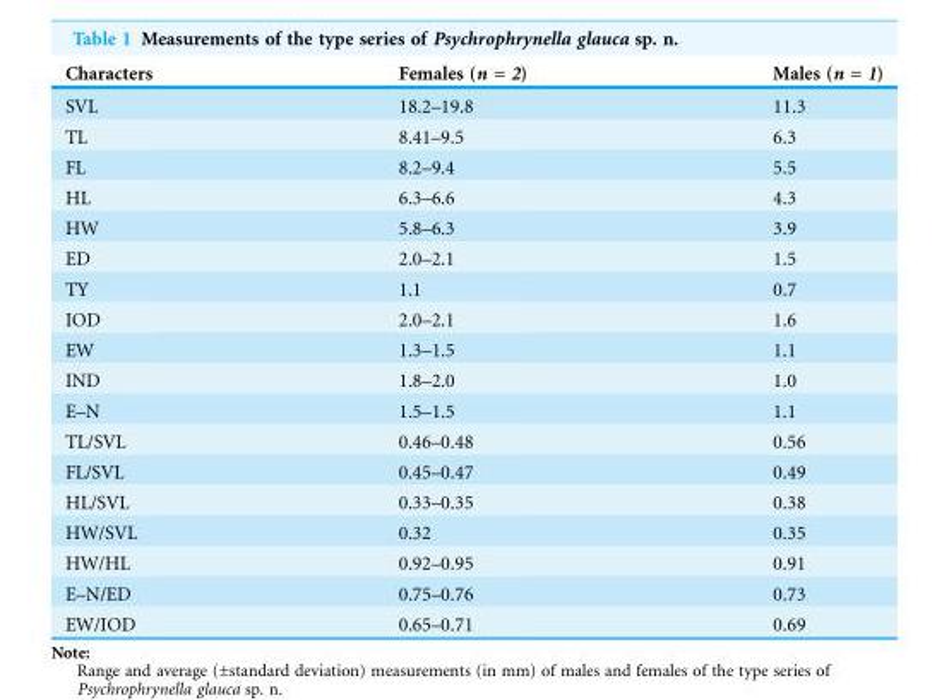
<table><thead><tr><td>Characters</td><td>Females (n = 2)</td><td>Males (n = 1)</td></tr></thead><tbody><tr><td>SVL</td><td>18.2–19.8</td><td>11.3</td></tr><tr><td>TL</td><td>8.41–9.5</td><td>6.3</td></tr><tr><td>FL</td><td>8.2–9.4</td><td>5.5</td></tr><tr><td>HL</td><td>6.3–6.6</td><td>4.3</td></tr><tr><td>HW</td><td>5.8–6.3</td><td>3.9</td></tr><tr><td>ED</td><td>2.0–2.1</td><td>1.5</td></tr><tr><td>TY</td><td>1.1</td><td>0.7</td></tr><tr><td>IOD</td><td>2.0–2.1</td><td>1.6</td></tr><tr><td>EW</td><td>1.3–1.5</td><td>1.1</td></tr><tr><td>IND</td><td>1.8–2.0</td><td>1.0</td></tr><tr><td>E–N</td><td>1.5–1.5</td><td>1.1</td></tr><tr><td>TL/SVL</td><td>0.46–0.48</td><td>0.56</td></tr><tr><td>FL/SVL</td><td>0.45–0.47</td><td>0.49</td></tr><tr><td>HL/SVL</td><td>0.33–0.35</td><td>0.38</td></tr><tr><td>HW/SVL</td><td>0.32</td><td>0.35</td></tr><tr><td>HW/HL</td><td>0.92–0.95</td><td>0.91</td></tr><tr><td>E–N/ED</td><td>0.75–0.76</td><td>0.73</td></tr><tr><td>EW/IOD</td><td>0.65–0.71</td><td>0.69</td></tr></tbody></table>